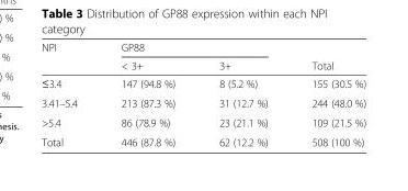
<table><thead><tr><td rowspan="2">NPI</td><td colspan="2">GP88</td><td rowspan="2">Total</td></tr><tr><td>&lt; 3+</td><td>3+</td></tr></thead><tbody><tr><td>≤3.4</td><td>147 (94.8 %)</td><td>8 (5.2 %)</td><td>155 (30.5 %)</td></tr><tr><td>3.41–5.4</td><td>213 (87.3 %)</td><td>31 (12.7 %)</td><td>244 (48.0 %)</td></tr><tr><td>&gt;5.4</td><td>86 (78.9 %)</td><td>23 (21.1 %)</td><td>109 (21.5 %)</td></tr><tr><td>Total</td><td>446 (87.8 %)</td><td>62 (12.2 %)</td><td>508 (100 %)</td></tr></tbody></table>